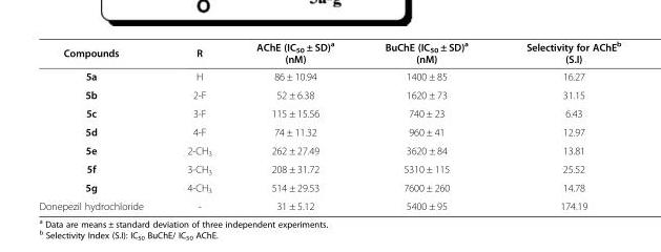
<table><thead><tr><td>Compounds</td><td>R</td><td>AChE (IC<sub>50</sub> ± SD)<sup>a</sup> (nM)</td><td>BuChE (IC<sub>50</sub> ± SD)<sup>a</sup> (nM)</td><td>Selectivity for AChE<sup>b</sup> (S.I)</td></tr></thead><tbody><tr><td>5a</td><td>H</td><td>86 ± 10.94</td><td>1400 ± 85</td><td>16.27</td></tr><tr><td>5b</td><td>2-F</td><td>52 ± 6.38</td><td>1620 ± 73</td><td>31.15</td></tr><tr><td>5c</td><td>3-F</td><td>115 ± 15.56</td><td>740 ± 23</td><td>6.43</td></tr><tr><td>5d</td><td>4-F</td><td>74 ± 11.32</td><td>960 ± 41</td><td>12.97</td></tr><tr><td>5e</td><td>2-CH<sub>3</sub></td><td>262 ± 27.49</td><td>3620 ± 84</td><td>13.81</td></tr><tr><td>5f</td><td>3-CH<sub>3</sub></td><td>208 ± 31.72</td><td>5310 ± 115</td><td>25.52</td></tr><tr><td>5g</td><td>4-CH<sub>3</sub></td><td>514 ± 29.53</td><td>7600 ± 260</td><td>14.78</td></tr><tr><td>Donepezil hydrochloride</td><td>-</td><td>31 ± 5.12</td><td>5400 ± 95</td><td>174.19</td></tr></tbody></table>